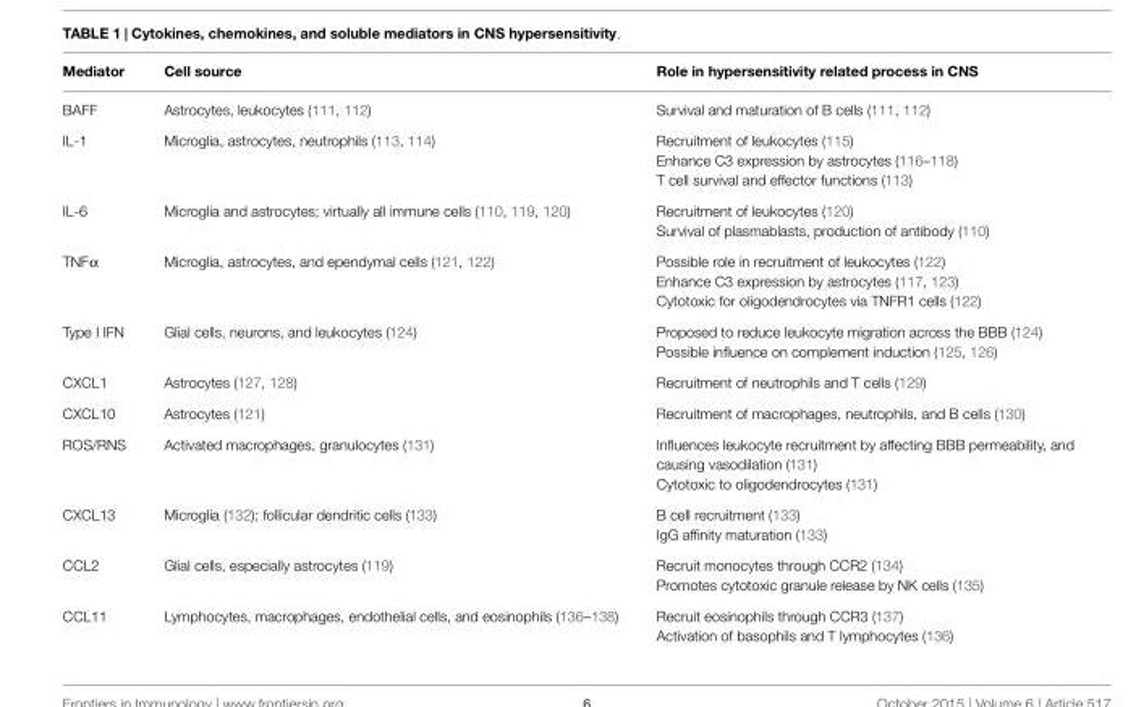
<table><thead><tr><td>Mediator</td><td>Cell source</td><td>Role in hypersensitivity related process in CNS</td></tr></thead><tbody><tr><td>BAFF</td><td>Astrocytes, leukocytes (111, 112)</td><td>Survival and maturation of B cells (111, 112)</td></tr><tr><td rowspan="3">IL-1</td><td>Microglia, astrocytes, neutrophils (113, 114)</td><td>Recruitment of leukocytes (115)</td></tr><tr><td></td><td>Enhance C3 expression by astrocytes (116–118)</td></tr><tr><td></td><td>T cell survival and effector functions (113)</td></tr><tr><td rowspan="2">IL-6</td><td>Microglia and astrocytes; virtually all immune cells (110, 119, 120)</td><td>Recruitment of leukocytes (120)</td></tr><tr><td></td><td>Survival of plasmablasts, production of antibody (110)</td></tr><tr><td rowspan="3">TNFα</td><td>Microglia, astrocytes, and ependymal cells (121, 122)</td><td>Possible role in recruitment of leukocytes (122)</td></tr><tr><td></td><td>Enhance C3 expression by astrocytes (117, 123)</td></tr><tr><td></td><td>Cytotoxic for oligodendrocytes via TNFR1 cells (122)</td></tr><tr><td rowspan="2">Type I IFN</td><td>Glial cells, neurons, and leukocytes (124)</td><td>Proposed to reduce leukocyte migration across the BBB (124)</td></tr><tr><td></td><td>Possible influence on complement induction (125, 126)</td></tr><tr><td>CXCL1</td><td>Astrocytes (127, 128)</td><td>Recruitment of neutrophils and T cells (129)</td></tr><tr><td>CXCL10</td><td>Astrocytes (121)</td><td>Recruitment of macrophages, neutrophils, and B cells (130)</td></tr><tr><td rowspan="2">ROS/RNS</td><td>Activated macrophages, granulocytes (131)</td><td>Influences leukocyte recruitment by affecting BBB permeability, and causing vasodilation (131)</td></tr><tr><td></td><td>Cytotoxic to oligodendrocytes (131)</td></tr><tr><td rowspan="2">CXCL13</td><td>Microglia (132); follicular dendritic cells (133)</td><td>B cell recruitment (133)</td></tr><tr><td></td><td>IgG affinity maturation (133)</td></tr><tr><td rowspan="2">CCL2</td><td>Glial cells, especially astrocytes (119)</td><td>Recruit monocytes through CCR2 (134)</td></tr><tr><td></td><td>Promotes cytotoxic granule release by NK cells (135)</td></tr><tr><td rowspan="2">CCL11</td><td>Lymphocytes, macrophages, endothelial cells, and eosinophils (136–138)</td><td>Recruit eosinophils through CCR3 (137)</td></tr><tr><td></td><td>Activation of basophils and T lymphocytes (136)</td></tr></tbody></table>